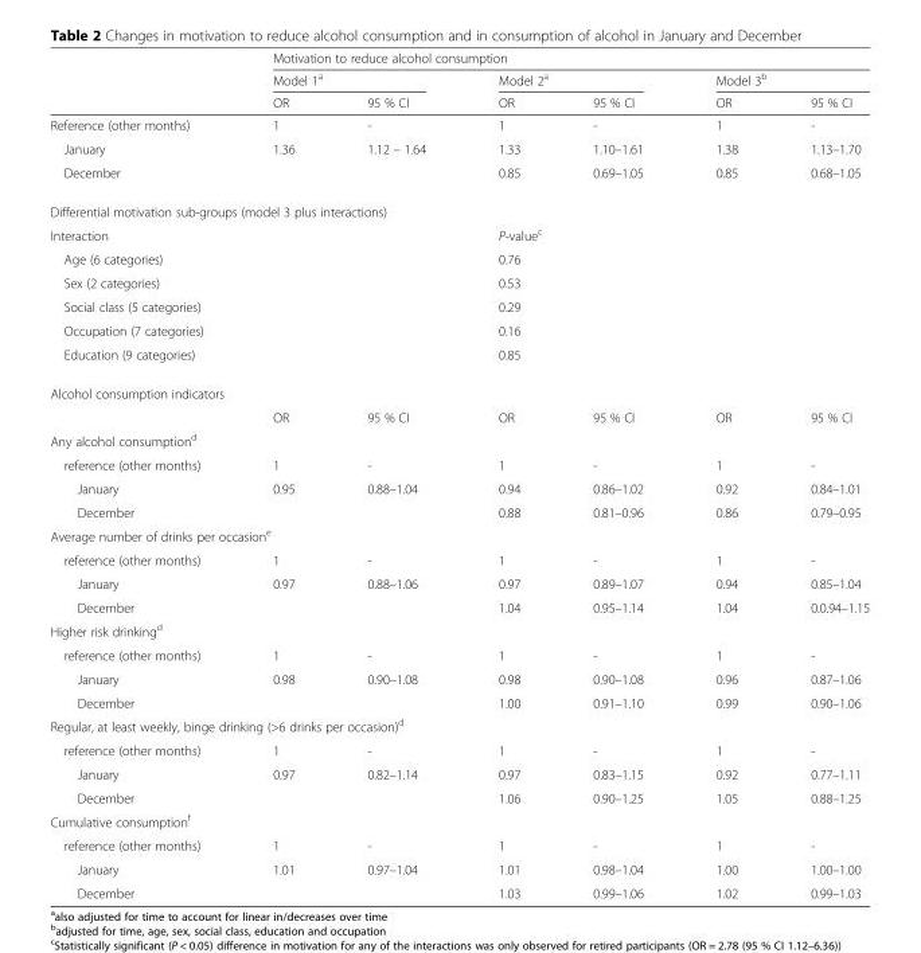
<table><thead><tr><td rowspan="3"></td><td colspan="6">Motivation to reduce alcohol consumption</td></tr><tr><td colspan="2">Model 1<sup>a</sup></td><td colspan="2">Model 2<sup>a</sup></td><td colspan="2">Model 3<sup>b</sup></td></tr><tr><td>OR</td><td>95 % CI</td><td>OR</td><td>95 % CI</td><td>OR</td><td>95 % CI</td></tr></thead><tbody><tr><td>Reference (other months)</td><td>1</td><td>-</td><td>1</td><td>-</td><td>1</td><td>-</td></tr><tr><td>January</td><td>1.36</td><td>1.12 – 1.64</td><td>1.33</td><td>1.10–1.61</td><td>1.38</td><td>1.13–1.70</td></tr><tr><td>December</td><td></td><td></td><td>0.85</td><td>0.69–1.05</td><td>0.85</td><td>0.68–1.05</td></tr><tr><td colspan="7">Differential motivation sub-groups (model 3 plus interactions)</td></tr><tr><td colspan="3">Interaction</td><td colspan="4">P-value<sup>c</sup></td></tr><tr><td colspan="3">Age (6 categories)</td><td colspan="4">0.76</td></tr><tr><td colspan="3">Sex (2 categories)</td><td colspan="4">0.53</td></tr><tr><td colspan="3">Social class (5 categories)</td><td colspan="4">0.29</td></tr><tr><td colspan="3">Occupation (7 categories)</td><td colspan="4">0.16</td></tr><tr><td colspan="3">Education (9 categories)</td><td colspan="4">0.85</td></tr><tr><td colspan="7">Alcohol consumption indicators</td></tr><tr><td></td><td>OR</td><td>95 % CI</td><td>OR</td><td>95 % CI</td><td>OR</td><td>95 % CI</td></tr><tr><td colspan="7">Any alcohol consumption<sup>d</sup></td></tr><tr><td>reference (other months)</td><td>1</td><td>-</td><td>1</td><td>-</td><td>1</td><td>-</td></tr><tr><td>January</td><td>0.95</td><td>0.88–1.04</td><td>0.94</td><td>0.86–1.02</td><td>0.92</td><td>0.84–1.01</td></tr><tr><td>December</td><td></td><td></td><td>0.88</td><td>0.81–0.96</td><td>0.86</td><td>0.79–0.95</td></tr><tr><td colspan="7">Average number of drinks per occasion<sup>e</sup></td></tr><tr><td>reference (other months)</td><td>1</td><td>-</td><td>1</td><td>-</td><td>1</td><td>-</td></tr><tr><td>January</td><td>0.97</td><td>0.88–1.06</td><td>0.97</td><td>0.89–1.07</td><td>0.94</td><td>0.85–1.04</td></tr><tr><td>December</td><td></td><td></td><td>1.04</td><td>0.95–1.14</td><td>1.04</td><td>0.0.94–1.15</td></tr><tr><td colspan="7">Higher risk drinking<sup>d</sup></td></tr><tr><td>reference (other months)</td><td>1</td><td>-</td><td>1</td><td>-</td><td>1</td><td>-</td></tr><tr><td>January</td><td>0.98</td><td>0.90–1.08</td><td>0.98</td><td>0.90–1.08</td><td>0.96</td><td>0.87–1.06</td></tr><tr><td>December</td><td></td><td></td><td>1.00</td><td>0.91–1.10</td><td>0.99</td><td>0.90–1.06</td></tr><tr><td colspan="7">Regular, at least weekly, binge drinking (&gt;6 drinks per occasion)<sup>d</sup></td></tr><tr><td>reference (other months)</td><td>1</td><td>-</td><td>1</td><td>-</td><td>1</td><td>-</td></tr><tr><td>January</td><td>0.97</td><td>0.82–1.14</td><td>0.97</td><td>0.83–1.15</td><td>0.92</td><td>0.77–1.11</td></tr><tr><td>December</td><td></td><td></td><td>1.06</td><td>0.90–1.25</td><td>1.05</td><td>0.88–1.25</td></tr><tr><td colspan="7">Cumulative consumption<sup>f</sup></td></tr><tr><td>reference (other months)</td><td>1</td><td>-</td><td>1</td><td>-</td><td>1</td><td>-</td></tr><tr><td>January</td><td>1.01</td><td>0.97–1.04</td><td>1.01</td><td>0.98–1.04</td><td>1.00</td><td>1.00–1.00</td></tr><tr><td>December</td><td></td><td></td><td>1.03</td><td>0.99–1.06</td><td>1.02</td><td>0.99–1.03</td></tr></tbody></table>